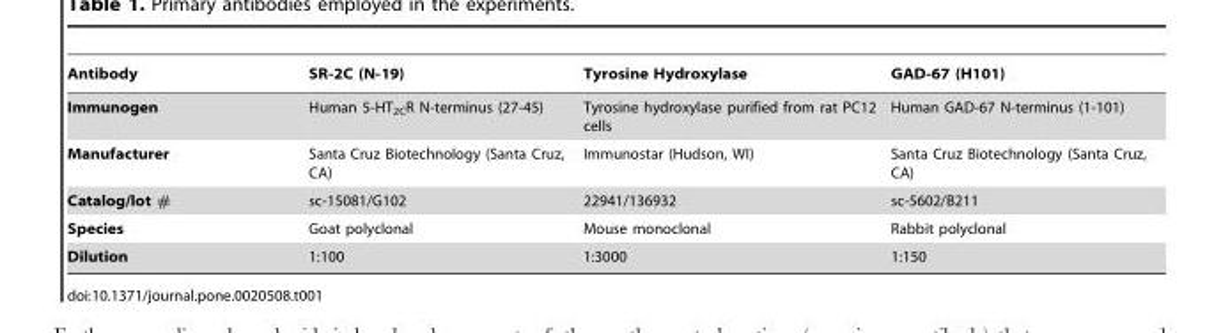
<table><thead><tr><td>Antibody</td><td>SR-2C (N-19)</td><td>Tyrosine Hydroxylase</td><td>GAD-67 (H101)</td></tr></thead><tbody><tr><td>Immunogen</td><td>Human 5-HT<sub>2C</sub>R N-terminus (27-45)</td><td>Tyrosine hydroxylase purified from rat PC12 cells</td><td>Human GAD-67 N-terminus (1-101)</td></tr><tr><td>Manufacturer</td><td>Santa Cruz Biotechnology (Santa Cruz, CA)</td><td>Immunostar (Hudson, WI)</td><td>Santa Cruz Biotechnology (Santa Cruz, CA)</td></tr><tr><td>Catalog/lot #</td><td>sc-15081/G102</td><td>22941/136932</td><td>sc-5602/B211</td></tr><tr><td>Species</td><td>Goat polyclonal</td><td>Mouse monoclonal</td><td>Rabbit polyclonal</td></tr><tr><td>Dilution</td><td>1:100</td><td>1:3000</td><td>1:150</td></tr></tbody></table>